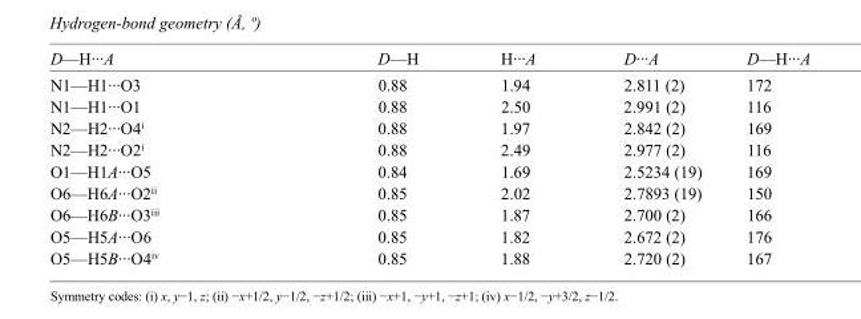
<table><tbody><tr><td>D—H···A</td><td>D—H</td><td>H···A</td><td>D···A</td><td>D—H···A</td></tr><tr><td>N1—H1···O3</td><td>0.88</td><td>1.94</td><td>2.811 (2)</td><td>172</td></tr><tr><td>N1—H1···O1</td><td>0.88</td><td>2.50</td><td>2.991 (2)</td><td>116</td></tr><tr><td>N2—H2···O4<sup>i</sup></td><td>0.88</td><td>1.97</td><td>2.842 (2)</td><td>169</td></tr><tr><td>N2—H2···O2<sup>i</sup></td><td>0.88</td><td>2.49</td><td>2.977 (2)</td><td>116</td></tr><tr><td>O1—H1A···O5</td><td>0.84</td><td>1.69</td><td>2.5234 (19)</td><td>169</td></tr><tr><td>O6—H6A···O2<sup>ii</sup></td><td>0.85</td><td>2.02</td><td>2.7893 (19)</td><td>150</td></tr><tr><td>O6—H6B···O3<sup>iii</sup></td><td>0.85</td><td>1.87</td><td>2.700 (2)</td><td>166</td></tr><tr><td>O5—H5A···O6</td><td>0.85</td><td>1.82</td><td>2.672 (2)</td><td>176</td></tr><tr><td>O5—H5B···O4<sup>iv</sup></td><td>0.85</td><td>1.88</td><td>2.720 (2)</td><td>167</td></tr></tbody></table>